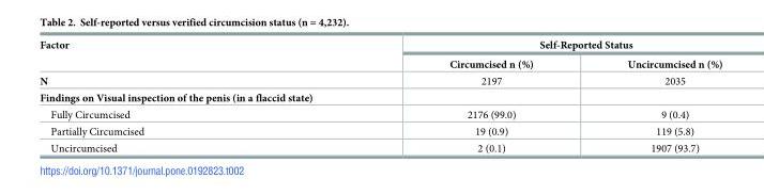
<table><thead><tr><td rowspan="2">Factor</td><td colspan="2">Self-Reported Status</td></tr><tr><td>Circumcised n (%)</td><td>Uncircumcised n (%)</td></tr></thead><tbody><tr><td>N</td><td>2197</td><td>2035</td></tr><tr><td colspan="3">Findings on Visual inspection of the penis (in a flaccid state)</td></tr><tr><td>Fully Circumcised</td><td>2176 (99.0)</td><td>9 (0.4)</td></tr><tr><td>Partially Circumcised</td><td>19 (0.9)</td><td>119 (5.8)</td></tr><tr><td>Uncircumcised</td><td>2 (0.1)</td><td>1907 (93.7)</td></tr></tbody></table>